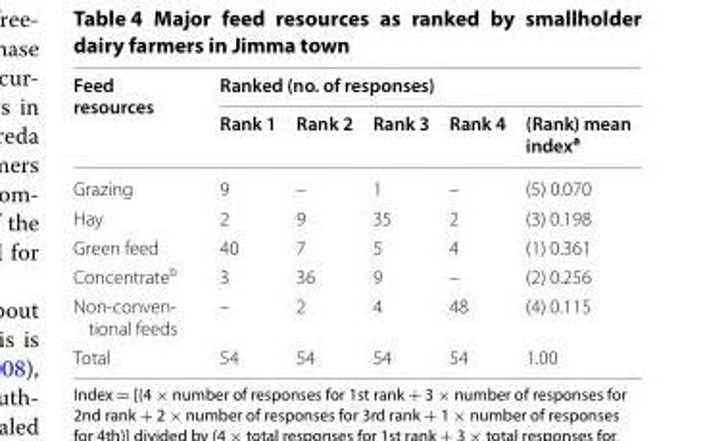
<table><thead><tr><td rowspan="2">Feed resources</td><td colspan="5">Ranked (no. of responses)</td></tr><tr><td>Rank 1</td><td>Rank 2</td><td>Rank 3</td><td>Rank 4</td><td>(Rank) mean index<sup>a</sup></td></tr></thead><tbody><tr><td>Grazing</td><td>9</td><td>–</td><td>1</td><td>–</td><td>(5) 0.070</td></tr><tr><td>Hay</td><td>2</td><td>9</td><td>35</td><td>2</td><td>(3) 0.198</td></tr><tr><td>Green feed</td><td>40</td><td>7</td><td>5</td><td>4</td><td>(1) 0.361</td></tr><tr><td>Concentrate<sup>b</sup></td><td>3</td><td>36</td><td>9</td><td>–</td><td>(2) 0.256</td></tr><tr><td>Non-conven- tional feeds</td><td>–</td><td>2</td><td>4</td><td>48</td><td>(4) 0.115</td></tr><tr><td>Total</td><td>54</td><td>54</td><td>54</td><td>54</td><td>1.00</td></tr></tbody></table>